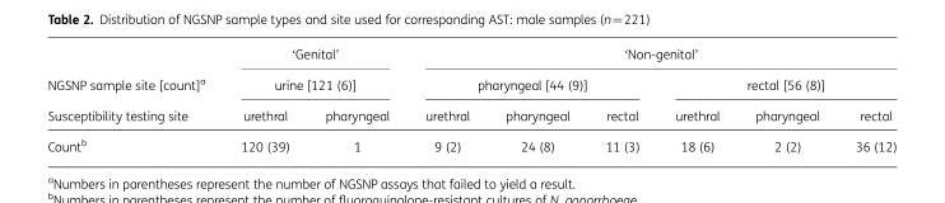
<table><thead><tr><td rowspan="3">NGSNP sample site [count]<sup>a</sup> Susceptibility testing site</td><td rowspan="2" colspan="2">‘Genital’ urine [121 (6)]</td><td colspan="6">‘Non-genital’</td></tr><tr><td colspan="3">pharyngeal [44 (9)]</td><td colspan="3">rectal [56 (8)]</td></tr><tr><td>urethral</td><td>pharyngeal</td><td>urethral</td><td>pharyngeal</td><td>rectal</td><td>urethral</td><td>pharyngeal</td><td>rectal</td></tr></thead><tbody><tr><td>Count<sup>b</sup></td><td>120 (39)</td><td>1</td><td>9 (2)</td><td>24 (8)</td><td>11 (3)</td><td>18 (6)</td><td>2 (2)</td><td>36 (12)</td></tr></tbody></table>